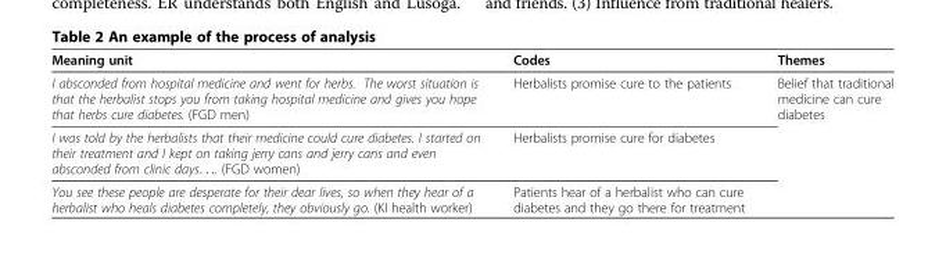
<table><thead><tr><td>Meaning unit</td><td>Codes</td><td>Themes</td></tr></thead><tbody><tr><td>I absconded from hospital medicine and went for herbs. The worst situation is that the herbalist stops you from taking hospital medicine and gives you hope that herbs cure diabetes. (FGD men)</td><td>Herbalists promise cure to the patients</td><td rowspan="3">Belief that traditional medicine can cure diabetes</td></tr><tr><td>I was told by the herbalists that their medicine could cure diabetes. I started on their treatment and I kept on taking jerry cans and jerry cans and even absconded from clinic days. . .. (FGD women)</td><td>Herbalists promise cure for diabetes</td></tr><tr><td>You see these people are desperate for their dear lives, so when they hear of a herbalist who heals diabetes completely, they obviously go. (KI health worker)</td><td>Patients hear of a herbalist who can cure diabetes and they go there for treatment</td></tr></tbody></table>